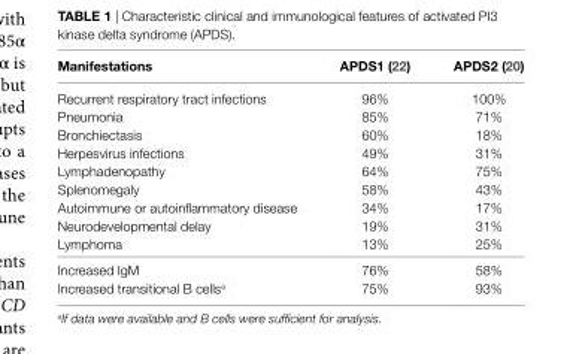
<table><thead><tr><td>Manifestations</td><td>APDS1 (22)</td><td>APDS2 (20)</td></tr></thead><tbody><tr><td>Recurrent respiratory tract infections</td><td>96%</td><td>100%</td></tr><tr><td>Pneumonia</td><td>85%</td><td>71%</td></tr><tr><td>Bronchiectasis</td><td>60%</td><td>18%</td></tr><tr><td>Herpesvirus infections</td><td>49%</td><td>31%</td></tr><tr><td>Lymphadenopathy</td><td>64%</td><td>75%</td></tr><tr><td>Splenomegaly</td><td>58%</td><td>43%</td></tr><tr><td>Autoimmune or autoinflammatory disease</td><td>34%</td><td>17%</td></tr><tr><td>Neurodevelopmental delay</td><td>19%</td><td>31%</td></tr><tr><td>Lymphoma</td><td>13%</td><td>25%</td></tr><tr><td>Increased IgM</td><td>76%</td><td>58%</td></tr><tr><td>Increased transitional B cells<sup>a</sup></td><td>75%</td><td>93%</td></tr></tbody></table>